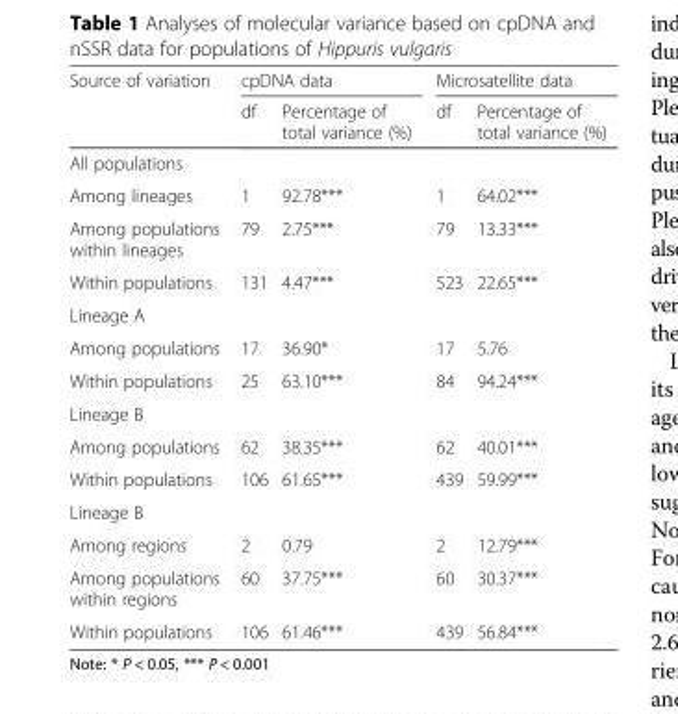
<table><thead><tr><td rowspan="2">Source of variation</td><td colspan="2">cpDNA data</td><td colspan="2">Microsatellite data</td></tr><tr><td>df</td><td>Percentage of total variance (%)</td><td>df</td><td>Percentage of total variance (%)</td></tr></thead><tbody><tr><td colspan="5">All populations</td></tr><tr><td>Among lineages</td><td>1</td><td>92.78***</td><td>1</td><td>64.02***</td></tr><tr><td>Among populations within lineages</td><td>79</td><td>2.75***</td><td>79</td><td>13.33***</td></tr><tr><td>Within populations</td><td>131</td><td>4.47***</td><td>523</td><td>22.65***</td></tr><tr><td colspan="5">Lineage A</td></tr><tr><td>Among populations</td><td>17</td><td>36.90*</td><td>17</td><td>5.76</td></tr><tr><td>Within populations</td><td>25</td><td>63.10***</td><td>84</td><td>94.24***</td></tr><tr><td colspan="5">Lineage B</td></tr><tr><td>Among populations</td><td>62</td><td>38.35***</td><td>62</td><td>40.01***</td></tr><tr><td>Within populations</td><td>106</td><td>61.65***</td><td>439</td><td>59.99***</td></tr><tr><td colspan="5">Lineage B</td></tr><tr><td>Among regions</td><td>2</td><td>0.79</td><td>2</td><td>12.79***</td></tr><tr><td>Among populations within regions</td><td>60</td><td>37.75***</td><td>60</td><td>30.37***</td></tr><tr><td>Within populations</td><td>106</td><td>61.46***</td><td>439</td><td>56.84***</td></tr></tbody></table>